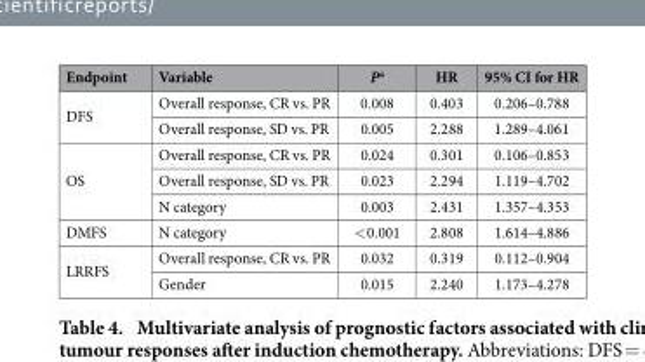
<table><thead><tr><td>Endpoint</td><td>Variable</td><td>P<sup>a</sup></td><td>HR</td><td>95% CI for HR</td></tr></thead><tbody><tr><td rowspan="2">DFS</td><td>Overall response, CR vs. PR</td><td>0.008</td><td>0.403</td><td>0.206–0.788</td></tr><tr><td>Overall response, SD vs. PR</td><td>0.005</td><td>2.288</td><td>1.289–4.061</td></tr><tr><td rowspan="3">OS</td><td>Overall response, CR vs. PR</td><td>0.024</td><td>0.301</td><td>0.106–0.853</td></tr><tr><td>Overall response, SD vs. PR</td><td>0.023</td><td>2.294</td><td>1.119–4.702</td></tr><tr><td>N category</td><td>0.003</td><td>2.431</td><td>1.357–4.353</td></tr><tr><td>DMFS</td><td>N category</td><td>&lt; 0.001</td><td>2.808</td><td>1.614–4.886</td></tr><tr><td rowspan="2">LRRFS</td><td>Overall response, CR vs. PR</td><td>0.032</td><td>0.319</td><td>0.112–0.904</td></tr><tr><td>Gender</td><td>0.015</td><td>2.240</td><td>1.173–4.278</td></tr></tbody></table>